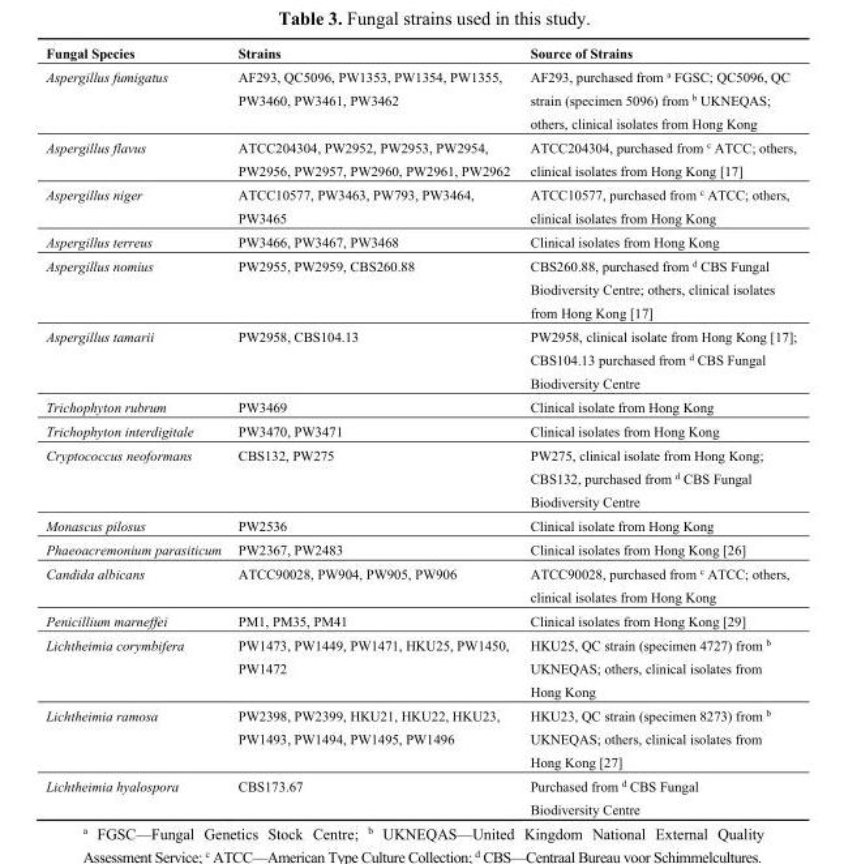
<table><thead><tr><td>Fungal Species</td><td>Strains</td><td>Source of Strains</td></tr></thead><tbody><tr><td>Aspergillus fumigatus</td><td>AF293, QC5096, PW1353, PW1354, PW1355, PW3460, PW3461, PW3462</td><td>AF293, purchased from <sup>a</sup> FGSC; QC5096, QC strain (specimen 5096) from <sup>b</sup> UKNEQAS; others, clinical isolates from Hong Kong</td></tr><tr><td>Aspergillus flavus</td><td>ATCC204304, PW2952, PW2953, PW2954, PW2956, PW2957, PW2960, PW2961, PW2962</td><td>ATCC204304, purchased from <sup>c</sup> ATCC; others, clinical isolates from Hong Kong [17]</td></tr><tr><td>Aspergillus niger</td><td>ATCC10577, PW3463, PW793, PW3464, PW3465</td><td>ATCC10577, purchased from <sup>c</sup> ATCC; others, clinical isolates from Hong Kong</td></tr><tr><td>Aspergillus terreus</td><td>PW3466, PW3467, PW3468</td><td>Clinical isolates from Hong Kong</td></tr><tr><td>Aspergillus nomius</td><td>PW2955, PW2959, CBS260.88</td><td>CBS260.88, purchased from <sup>d</sup> CBS Fungal Biodiversity Centre; others, clinical isolates from Hong Kong [17]</td></tr><tr><td>Aspergillus tamarii</td><td>PW2958, CBS104.13</td><td>PW2958, clinical isolate from Hong Kong [17]; CBS104.13 purchased from <sup>d</sup> CBS Fungal Biodiversity Centre</td></tr><tr><td>Trichophyton rubrum</td><td>PW3469</td><td>Clinical isolate from Hong Kong</td></tr><tr><td>Trichophyton interdigitale</td><td>PW3470, PW3471</td><td>Clinical isolates from Hong Kong</td></tr><tr><td>Cryptococcus neoformans</td><td>CBS132, PW275</td><td>PW275, clinical isolate from Hong Kong; CBS132, purchased from <sup>d</sup> CBS Fungal Biodiversity Centre</td></tr><tr><td>Monascus pilosus</td><td>PW2536</td><td>Clinical isolate from Hong Kong</td></tr><tr><td>Phaeoacremonium parasiticum</td><td>PW2367, PW2483</td><td>Clinical isolates from Hong Kong [26]</td></tr><tr><td>Candida albicans</td><td>ATCC90028, PW904, PW905, PW906</td><td>ATCC90028, purchased from <sup>c</sup> ATCC; others, clinical isolates from Hong Kong</td></tr><tr><td>Penicillium marneffei</td><td>PM1, PM35, PM41</td><td>Clinical isolates from Hong Kong [29]</td></tr><tr><td>Lichtheimia corymbifera</td><td>PW1473, PW1449, PW1471, HKU25, PW1450, PW1472</td><td>HKU25, QC strain (specimen 4727) from <sup>b</sup> UKNEQAS; others, clinical isolates from Hong Kong</td></tr><tr><td>Lichtheimia ramosa</td><td>PW2398, PW2399, HKU21, HKU22, HKU23, PW1493, PW1494, PW1495, PW1496</td><td>HKU23, QC strain (specimen 8273) from <sup>b</sup> UKNEQAS; others, clinical isolates from Hong Kong [27]</td></tr><tr><td>Lichtheimia hyalospora</td><td>CBS173.67</td><td>Purchased from <sup>d</sup> CBS Fungal Biodiversity Centre</td></tr></tbody></table>